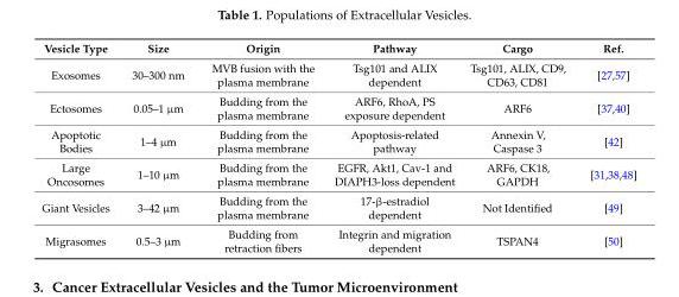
<table><thead><tr><td>Vesicle Type</td><td>Size</td><td>Origin</td><td>Pathway</td><td>Cargo</td><td>Ref.</td></tr></thead><tbody><tr><td>Exosomes</td><td>30–300 nm</td><td>MVB fusion with the plasma membrane</td><td>Tsg101 and ALIX dependent</td><td>Tsg101, ALIX, CD9, CD63, CD81</td><td>[27,57]</td></tr><tr><td>Ectosomes</td><td>0.05–1 µm</td><td>Budding from the plasma membrane</td><td>ARF6, RhoA, PS exposure dependent</td><td>ARF6</td><td>[37,40]</td></tr><tr><td>Apoptotic Bodies</td><td>1–4 µm</td><td>Budding from the plasma membrane</td><td>Apoptosis-related pathway</td><td>Annexin V, Caspase 3</td><td>[42]</td></tr><tr><td>Large Oncosomes</td><td>1–10 µm</td><td>Budding from the plasma membrane</td><td>EGFR, Akt1, Cav-1 and DIAPH3-loss dependent</td><td>ARF6, CK18, GAPDH</td><td>[31,38,48]</td></tr><tr><td>Giant Vesicles</td><td>3–42 µm</td><td>Budding from the plasma membrane</td><td>17-β-estradiol dependent</td><td>Not Identified</td><td>[49]</td></tr><tr><td>Migrasomes</td><td>0.5–3 µm</td><td>Budding from retraction fibers</td><td>Integrin and migration dependent</td><td>TSPAN4</td><td>[50]</td></tr></tbody></table>